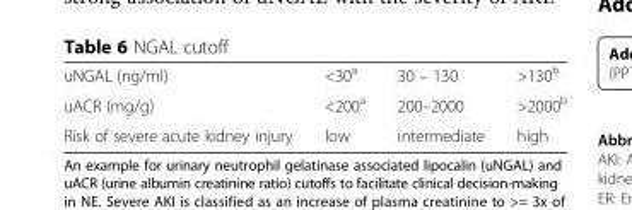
<table><tbody><tr><td>uNGAL (ng/ml)</td><td>&lt;30<sup>a</sup></td><td>30 – 130</td><td>&gt;130<sup>b</sup></td></tr><tr><td>uACR (mg/g)</td><td>&lt;200<sup>a</sup></td><td>200–2000</td><td>&gt;2000<sup>b</sup></td></tr><tr><td>Risk of severe acute kidney injury</td><td>low</td><td>intermediate</td><td>high</td></tr></tbody></table>